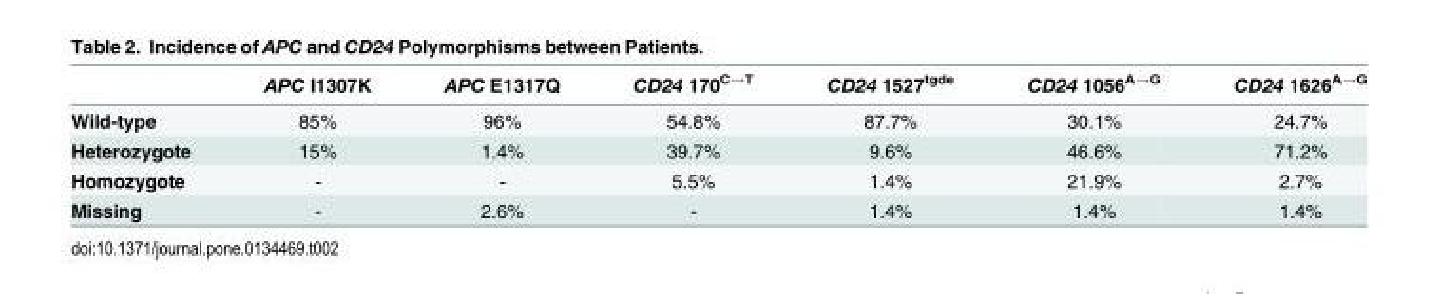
<table><thead><tr><td></td><td>APC I1307K</td><td>APC E1317Q</td><td>CD24 170<sup>C→T</sup></td><td>CD24 1527<sup>tgde</sup></td><td>CD24 1056<sup>A→G</sup></td><td>CD24 1626<sup>A→G</sup></td></tr></thead><tbody><tr><td>Wild-type</td><td>85%</td><td>96%</td><td>54.8%</td><td>87.7%</td><td>30.1%</td><td>24.7%</td></tr><tr><td>Heterozygote</td><td>15%</td><td>1.4%</td><td>39.7%</td><td>9.6%</td><td>46.6%</td><td>71.2%</td></tr><tr><td>Homozygote</td><td>-</td><td>-</td><td>5.5%</td><td>1.4%</td><td>21.9%</td><td>2.7%</td></tr><tr><td>Missing</td><td>-</td><td>2.6%</td><td>-</td><td>1.4%</td><td>1.4%</td><td>1.4%</td></tr></tbody></table>